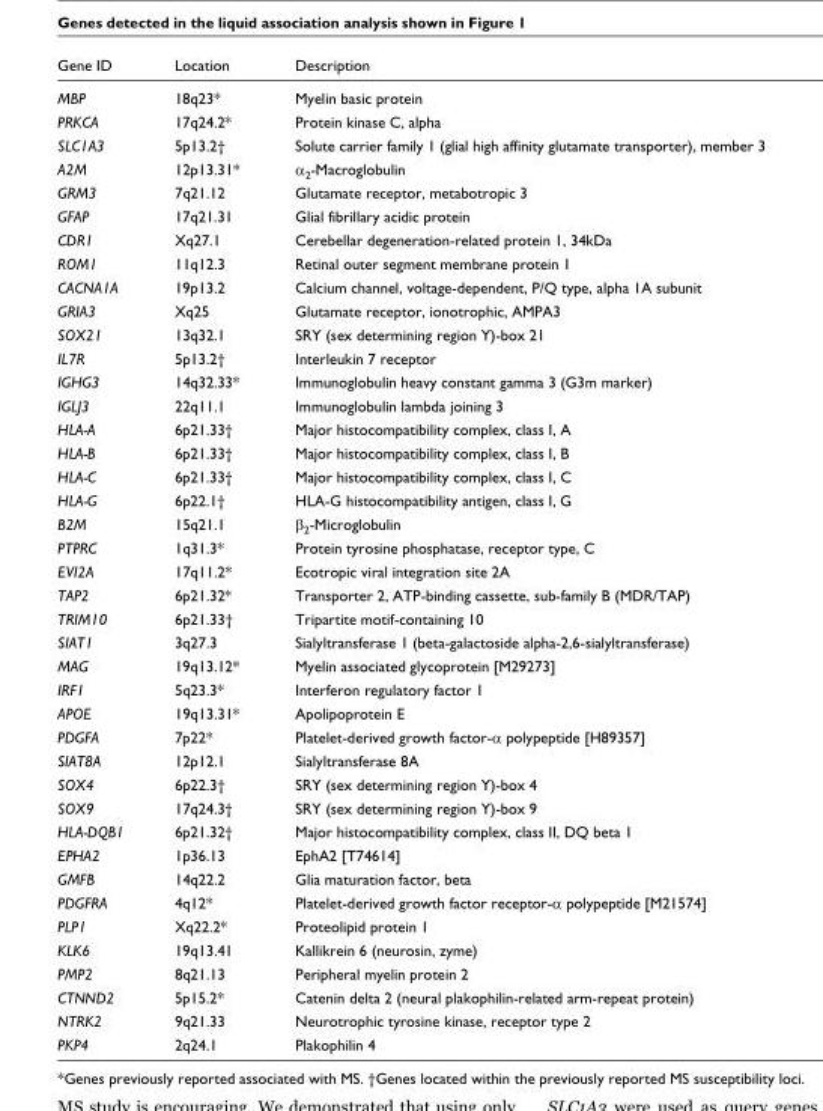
<table><thead><tr><td>Gene ID</td><td>Location</td><td>Description</td></tr></thead><tbody><tr><td>MBP</td><td>18q23*</td><td>Myelin basic protein</td></tr><tr><td>PRKCA</td><td>17q24.2*</td><td>Protein kinase C, alpha</td></tr><tr><td>SLC1A3</td><td>5p13.2†</td><td>Solute carrier family 1 (glial high affinity glutamate transporter), member 3</td></tr><tr><td>A2M</td><td>12p13.31*</td><td>α<sub>2</sub>-Macroglobulin</td></tr><tr><td>GRM3</td><td>7q21.12</td><td>Glutamate receptor, metabotropic 3</td></tr><tr><td>GFAP</td><td>17q21.31</td><td>Glial fibrillary acidic protein</td></tr><tr><td>CDR1</td><td>Xq27.1</td><td>Cerebellar degeneration-related protein 1, 34kDa</td></tr><tr><td>ROM1</td><td>11q12.3</td><td>Retinal outer segment membrane protein 1</td></tr><tr><td>CACNA1A</td><td>19p13.2</td><td>Calcium channel, voltage-dependent, P/Q type, alpha 1A subunit</td></tr><tr><td>GRIA3</td><td>Xq25</td><td>Glutamate receptor, ionotrophic, AMPA3</td></tr><tr><td>SOX21</td><td>13q32.1</td><td>SRY (sex determining region Y)-box 21</td></tr><tr><td>IL7R</td><td>5p13.2†</td><td>Interleukin 7 receptor</td></tr><tr><td>IGHG3</td><td>14q32.33*</td><td>Immunoglobulin heavy constant gamma 3 (G3m marker)</td></tr><tr><td>IGLJ3</td><td>22q11.1</td><td>Immunoglobulin lambda joining 3</td></tr><tr><td>HLA-A</td><td>6p21.33†</td><td>Major histocompatibility complex, class I, A</td></tr><tr><td>HLA-B</td><td>6p21.33†</td><td>Major histocompatibility complex, class I, B</td></tr><tr><td>HLA-C</td><td>6p21.33†</td><td>Major histocompatibility complex, class I, C</td></tr><tr><td>HLA-G</td><td>6p22.1†</td><td>HLA-G histocompatibility antigen, class I, G</td></tr><tr><td>B2M</td><td>15q21.1</td><td>β<sub>2</sub>-Microglobulin</td></tr><tr><td>PTPRC</td><td>1q31.3*</td><td>Protein tyrosine phosphatase, receptor type, C</td></tr><tr><td>EVI2A</td><td>17q11.2*</td><td>Ecotropic viral integration site 2A</td></tr><tr><td>TAP2</td><td>6p21.32*</td><td>Transporter 2, ATP-binding cassette, sub-family B (MDR/TAP)</td></tr><tr><td>TRIM10</td><td>6p21.33†</td><td>Tripartite motif-containing 10</td></tr><tr><td>SIAT1</td><td>3q27.3</td><td>Sialyltransferase 1 (beta-galactoside alpha-2,6-sialyltransferase)</td></tr><tr><td>MAG</td><td>19q13.12*</td><td>Myelin associated glycoprotein [M29273]</td></tr><tr><td>IRF1</td><td>5q23.3*</td><td>Interferon regulatory factor 1</td></tr><tr><td>APOE</td><td>19q13.31*</td><td>Apolipoprotein E</td></tr><tr><td>PDGFA</td><td>7p22*</td><td>Platelet-derived growth factor-α polypeptide [H89357]</td></tr><tr><td>SIAT8A</td><td>12p12.1</td><td>Sialyltransferase 8A</td></tr><tr><td>SOX4</td><td>6p22.3†</td><td>SRY (sex determining region Y)-box 4</td></tr><tr><td>SOX9</td><td>17q24.3†</td><td>SRY (sex determining region Y)-box 9</td></tr><tr><td>HLA-DQB1</td><td>6p21.32†</td><td>Major histocompatibility complex, class II, DQ beta 1</td></tr><tr><td>EPHA2</td><td>1p36.13</td><td>EphA2 [T74614]</td></tr><tr><td>GMFB</td><td>14q22.2</td><td>Glia maturation factor, beta</td></tr><tr><td>PDGFRA</td><td>4q12*</td><td>Platelet-derived growth factor receptor-α polypeptide [M21574]</td></tr><tr><td>PLP1</td><td>Xq22.2*</td><td>Proteolipid protein 1</td></tr><tr><td>KLK6</td><td>19q13.41</td><td>Kallikrein 6 (neurosin, zyme)</td></tr><tr><td>PMP2</td><td>8q21.13</td><td>Peripheral myelin protein 2</td></tr><tr><td>CTNND2</td><td>5p15.2*</td><td>Catenin delta 2 (neural plakophilin-related arm-repeat protein)</td></tr><tr><td>NTRK2</td><td>9q21.33</td><td>Neurotrophic tyrosine kinase, receptor type 2</td></tr><tr><td>PKP4</td><td>2q24.1</td><td>Plakophilin 4</td></tr></tbody></table>